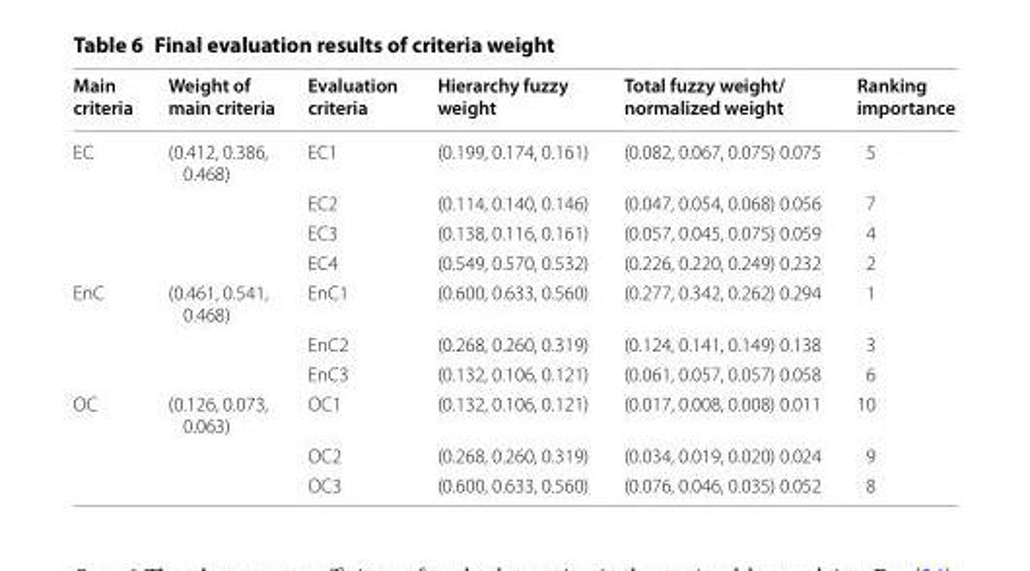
<table><thead><tr><td>Main criteria</td><td>Weight of main criteria</td><td>Evaluation criteria</td><td>Hierarchy fuzzy weight</td><td>Total fuzzy weight/ normalized weight</td><td>Ranking importance</td></tr></thead><tbody><tr><td rowspan="4">EC</td><td>(0.412, 0.386, 0.468)</td><td>EC1</td><td>(0.199, 0.174, 0.161)</td><td>(0.082, 0.067, 0.075) 0.075</td><td>5</td></tr><tr><td></td><td>EC2</td><td>(0.114, 0.140, 0.146)</td><td>(0.047, 0.054, 0.068) 0.056</td><td>7</td></tr><tr><td></td><td>EC3</td><td>(0.138, 0.116, 0.161)</td><td>(0.057, 0.045, 0.075) 0.059</td><td>4</td></tr><tr><td></td><td>EC4</td><td>(0.549, 0.570, 0.532)</td><td>(0.226, 0.220, 0.249) 0.232</td><td>2</td></tr><tr><td rowspan="3">EnC</td><td>(0.461, 0.541, 0.468)</td><td>EnC1</td><td>(0.600, 0.633, 0.560)</td><td>(0.277, 0.342, 0.262) 0.294</td><td>1</td></tr><tr><td></td><td>EnC2</td><td>(0.268, 0.260, 0.319)</td><td>(0.124, 0.141, 0.149) 0.138</td><td>3</td></tr><tr><td></td><td>EnC3</td><td>(0.132, 0.106, 0.121)</td><td>(0.061, 0.057, 0.057) 0.058</td><td>6</td></tr><tr><td rowspan="3">OC</td><td>(0.126, 0.073, 0.063)</td><td>OC1</td><td>(0.132, 0.106, 0.121)</td><td>(0.017, 0.008, 0.008) 0.011</td><td>10</td></tr><tr><td></td><td>OC2</td><td>(0.268, 0.260, 0.319)</td><td>(0.034, 0.019, 0.020) 0.024</td><td>9</td></tr><tr><td></td><td>OC3</td><td>(0.600, 0.633, 0.560)</td><td>(0.076, 0.046, 0.035) 0.052</td><td>8</td></tr></tbody></table>